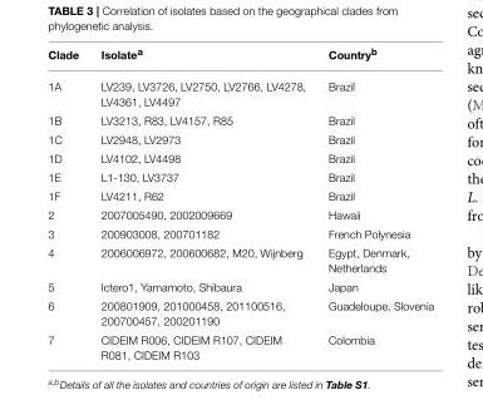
<table><thead><tr><td>Clade</td><td>Isolate<sup>a</sup></td><td>Country<sup>b</sup></td></tr></thead><tbody><tr><td>1A</td><td>LV239, LV3726, LV2750, LV2766, LV4278, LV4361, LV4497</td><td>Brazil</td></tr><tr><td>1B</td><td>LV3213, R83, LV4157, R85</td><td>Brazil</td></tr><tr><td>1C</td><td>LV2948, LV2973</td><td>Brazil</td></tr><tr><td>1D</td><td>LV4102, LV4498</td><td>Brazil</td></tr><tr><td>1E</td><td>L1-130, LV3737</td><td>Brazil</td></tr><tr><td>1F</td><td>LV4211, R62</td><td>Brazil</td></tr><tr><td>2</td><td>2007005490, 2002009669</td><td>Hawaii</td></tr><tr><td>3</td><td>200903008, 200701182</td><td>French Polynesia</td></tr><tr><td>4</td><td>2006006972, 200600682, M20, Wijnberg</td><td>Egypt, Denmark, Netherlands</td></tr><tr><td>5</td><td>Ictero1, Yamamoto, Shibaura</td><td>Japan</td></tr><tr><td>6</td><td>200801909, 201000458, 201100516, 200700457, 200201190</td><td>Guadeloupe, Slovenia</td></tr><tr><td>7</td><td>CIDEIM R006, CIDEIM R107, CIDEIM R081, CIDEIM R103</td><td>Colombia</td></tr></tbody></table>